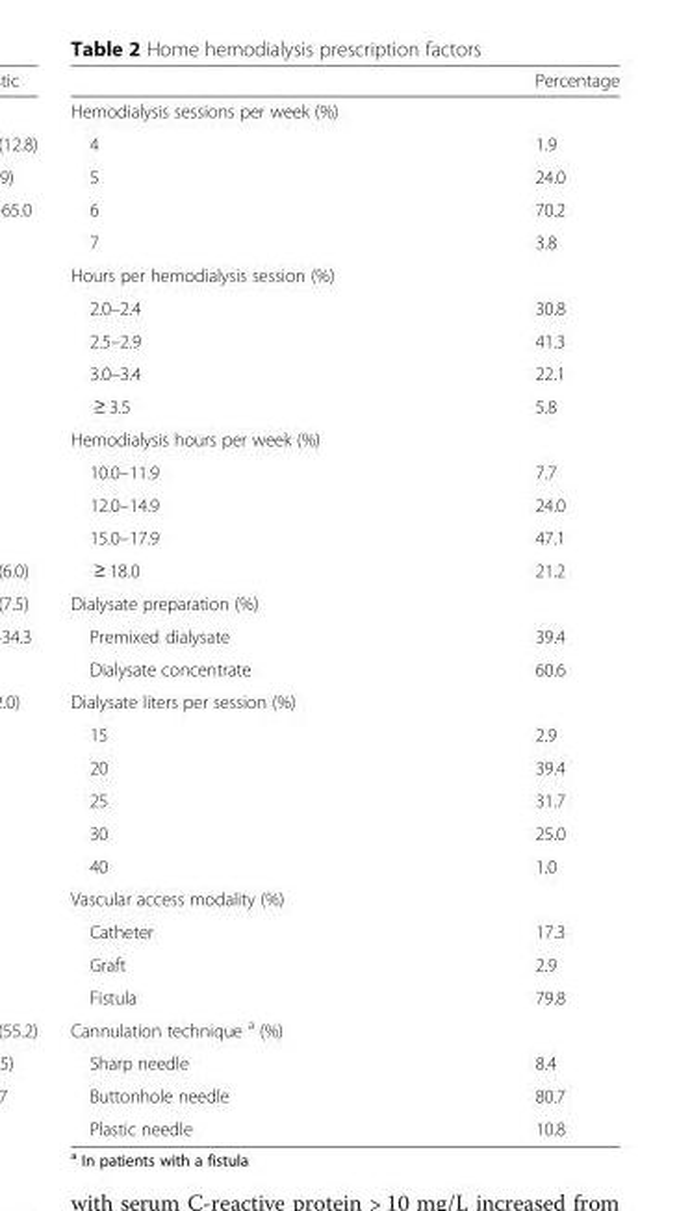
<table><thead><tr><td></td><td>Percentage</td></tr></thead><tbody><tr><td colspan="2">Hemodialysis sessions per week (%)</td></tr><tr><td>4</td><td>1.9</td></tr><tr><td>5</td><td>24.0</td></tr><tr><td>6</td><td>70.2</td></tr><tr><td>7</td><td>3.8</td></tr><tr><td colspan="2">Hours per hemodialysis session (%)</td></tr><tr><td>2.0–2.4</td><td>30.8</td></tr><tr><td>2.5–2.9</td><td>41.3</td></tr><tr><td>3.0–3.4</td><td>22.1</td></tr><tr><td>≥ 3.5</td><td>5.8</td></tr><tr><td colspan="2">Hemodialysis hours per week (%)</td></tr><tr><td>10.0–11.9</td><td>7.7</td></tr><tr><td>12.0–14.9</td><td>24.0</td></tr><tr><td>15.0–17.9</td><td>47.1</td></tr><tr><td>≥ 18.0</td><td>21.2</td></tr><tr><td colspan="2">Dialysate preparation (%)</td></tr><tr><td>Premixed dialysate</td><td>39.4</td></tr><tr><td>Dialysate concentrate</td><td>60.6</td></tr><tr><td colspan="2">Dialysate liters per session (%)</td></tr><tr><td>15</td><td>2.9</td></tr><tr><td>20</td><td>39.4</td></tr><tr><td>25</td><td>31.7</td></tr><tr><td>30</td><td>25.0</td></tr><tr><td>40</td><td>1.0</td></tr><tr><td colspan="2">Vascular access modality (%)</td></tr><tr><td>Catheter</td><td>17.3</td></tr><tr><td>Graft</td><td>2.9</td></tr><tr><td>Fistula</td><td>79.8</td></tr><tr><td colspan="2">Cannulation technique <sup>a</sup> (%)</td></tr><tr><td>Sharp needle</td><td>8.4</td></tr><tr><td>Buttonhole needle</td><td>80.7</td></tr><tr><td>Plastic needle</td><td>10.8</td></tr></tbody></table>